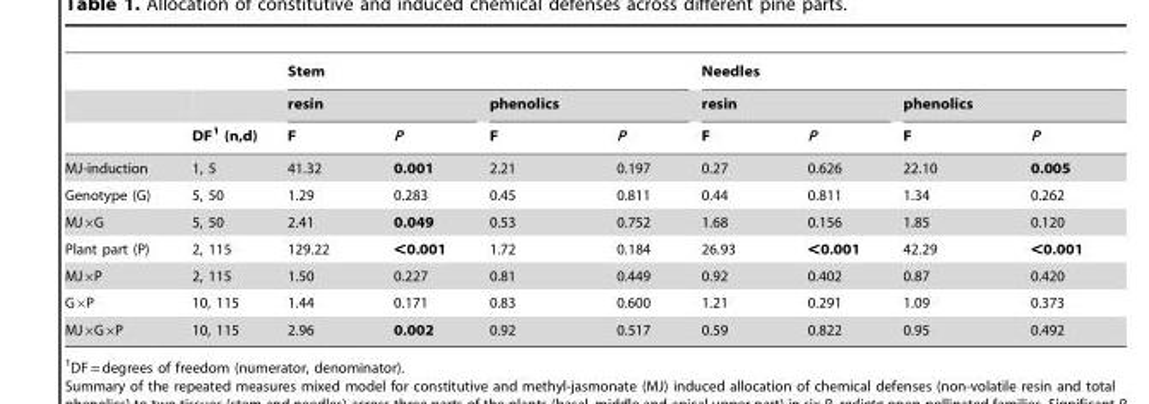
<table><thead><tr><td rowspan="3"></td><td rowspan="3">DF<sup>1</sup> (n,d)</td><td colspan="4">Stem</td><td colspan="4">Needles</td></tr><tr><td colspan="2">resin</td><td colspan="2">phenolics</td><td colspan="2">resin</td><td colspan="2">phenolics</td></tr><tr><td>F</td><td>P</td><td>F</td><td>P</td><td>F</td><td>P</td><td>F</td><td>P</td></tr></thead><tbody><tr><td>MJ-induction</td><td>1, 5</td><td>41.32</td><td>0.001</td><td>2.21</td><td>0.197</td><td>0.27</td><td>0.626</td><td>22.10</td><td>0.005</td></tr><tr><td>Genotype (G)</td><td>5, 50</td><td>1.29</td><td>0.283</td><td>0.45</td><td>0.811</td><td>0.44</td><td>0.811</td><td>1.34</td><td>0.262</td></tr><tr><td>MJ×G</td><td>5, 50</td><td>2.41</td><td>0.049</td><td>0.53</td><td>0.752</td><td>1.68</td><td>0.156</td><td>1.85</td><td>0.120</td></tr><tr><td>Plant part (P)</td><td>2, 115</td><td>129.22</td><td>&lt;0.001</td><td>1.72</td><td>0.184</td><td>26.93</td><td>&lt;0.001</td><td>42.29</td><td>&lt;0.001</td></tr><tr><td>MJ×P</td><td>2, 115</td><td>1.50</td><td>0.227</td><td>0.81</td><td>0.449</td><td>0.92</td><td>0.402</td><td>0.87</td><td>0.420</td></tr><tr><td>G×P</td><td>10, 115</td><td>1.44</td><td>0.171</td><td>0.83</td><td>0.600</td><td>1.21</td><td>0.291</td><td>1.09</td><td>0.373</td></tr><tr><td>MJ×G×P</td><td>10, 115</td><td>2.96</td><td>0.002</td><td>0.92</td><td>0.517</td><td>0.59</td><td>0.822</td><td>0.95</td><td>0.492</td></tr></tbody></table>